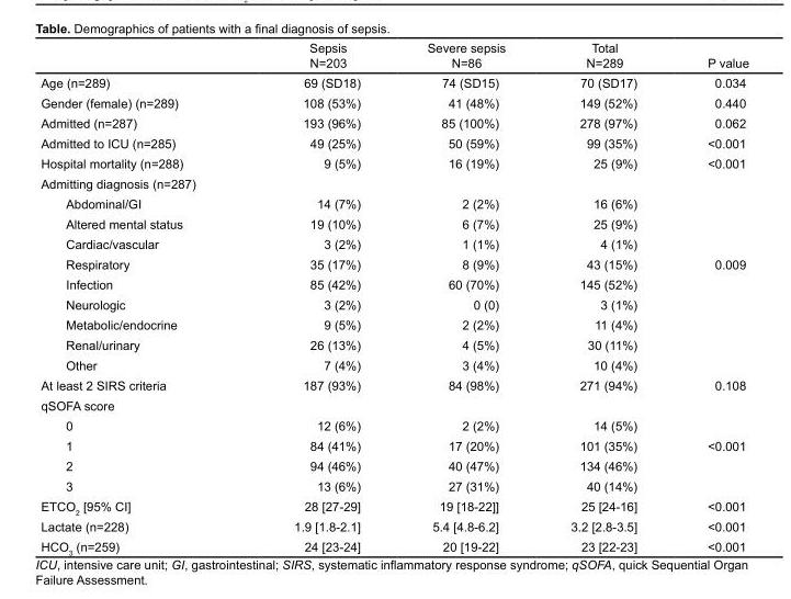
<table><thead><tr><td></td><td>Sepsis N=203</td><td>Severe sepsis N=86</td><td>Total N=289</td><td>P value</td></tr></thead><tbody><tr><td>Age (n=289)</td><td>69 (SD18)</td><td>74 (SD15)</td><td>70 (SD17)</td><td>0.034</td></tr><tr><td>Gender (female) (n=289)</td><td>108 (53%)</td><td>41 (48%)</td><td>149 (52%)</td><td>0.440</td></tr><tr><td>Admitted (n=287)</td><td>193 (96%)</td><td>85 (100%)</td><td>278 (97%)</td><td>0.062</td></tr><tr><td>Admitted to ICU (n=285)</td><td>49 (25%)</td><td>50 (59%)</td><td>99 (35%)</td><td>&lt;0.001</td></tr><tr><td>Hospital mortality (n=288)</td><td>9 (5%)</td><td>16 (19%)</td><td>25 (9%)</td><td>&lt;0.001</td></tr><tr><td colspan="5">Admitting diagnosis (n=287)</td></tr><tr><td>Abdominal/GI</td><td>14 (7%)</td><td>2 (2%)</td><td>16 (6%)</td><td></td></tr><tr><td>Altered mental status</td><td>19 (10%)</td><td>6 (7%)</td><td>25 (9%)</td><td></td></tr><tr><td>Cardiac/vascular</td><td>3 (2%)</td><td>1 (1%)</td><td>4 (1%)</td><td></td></tr><tr><td>Respiratory</td><td>35 (17%)</td><td>8 (9%)</td><td>43 (15%)</td><td>0.009</td></tr><tr><td>Infection</td><td>85 (42%)</td><td>60 (70%)</td><td>145 (52%)</td><td></td></tr><tr><td>Neurologic</td><td>3 (2%)</td><td>0 (0)</td><td>3 (1%)</td><td></td></tr><tr><td>Metabolic/endocrine</td><td>9 (5%)</td><td>2 (2%)</td><td>11 (4%)</td><td></td></tr><tr><td>Renal/urinary</td><td>26 (13%)</td><td>4 (5%)</td><td>30 (11%)</td><td></td></tr><tr><td>Other</td><td>7 (4%)</td><td>3 (4%)</td><td>10 (4%)</td><td></td></tr><tr><td>At least 2 SIRS criteria</td><td>187 (93%)</td><td>84 (98%)</td><td>271 (94%)</td><td>0.108</td></tr><tr><td colspan="5">qSOFA score</td></tr><tr><td>0</td><td>12 (6%)</td><td>2 (2%)</td><td>14 (5%)</td><td></td></tr><tr><td>1</td><td>84 (41%)</td><td>17 (20%)</td><td>101 (35%)</td><td>&lt;0.001</td></tr><tr><td>2</td><td>94 (46%)</td><td>40 (47%)</td><td>134 (46%)</td><td></td></tr><tr><td>3</td><td>13 (6%)</td><td>27 (31%)</td><td>40 (14%)</td><td></td></tr><tr><td>ETCO<sub>2</sub> [95% CI]</td><td>28 [27-29]</td><td>19 [18-22]]</td><td>25 [24-16]</td><td>&lt;0.001</td></tr><tr><td>Lactate (n=228)</td><td>1.9 [1.8-2.1]</td><td>5.4 [4.8-6.2]</td><td>3.2 [2.8-3.5]</td><td>&lt;0.001</td></tr><tr><td>HCO<sub>3</sub> (n=259)</td><td>24 [23-24]</td><td>20 [19-22]</td><td>23 [22-23]</td><td>&lt;0.001</td></tr></tbody></table>